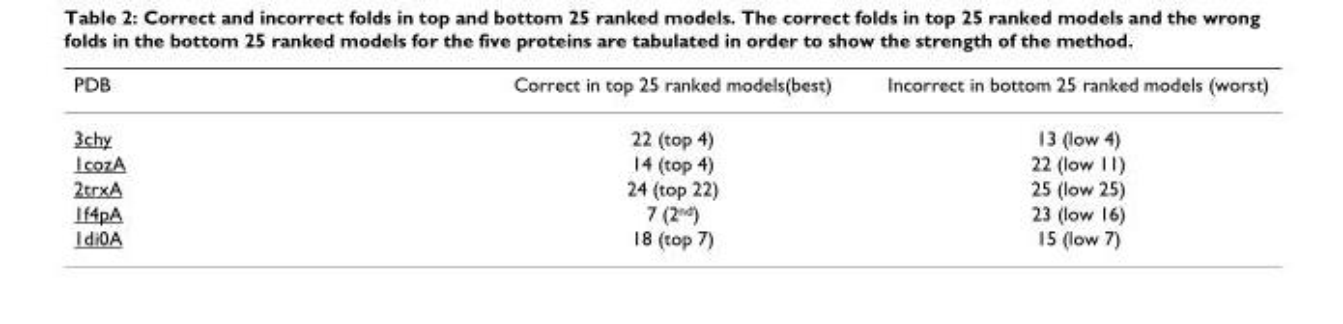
<table><thead><tr><td>PDB</td><td>Correct in top 25 ranked models(best)</td><td>Incorrect in bottom 25 ranked models (worst)</td></tr></thead><tbody><tr><td>3chy</td><td>22 (top 4)</td><td>13 (low 4)</td></tr><tr><td>1cozA</td><td>14 (top 4)</td><td>22 (low 11)</td></tr><tr><td>2trxA</td><td>24 (top 22)</td><td>25 (low 25)</td></tr><tr><td>1f4pA</td><td>7 (2<sup>nd</sup>)</td><td>23 (low 16)</td></tr><tr><td>1di0A</td><td>18 (top 7)</td><td>15 (low 7)</td></tr></tbody></table>